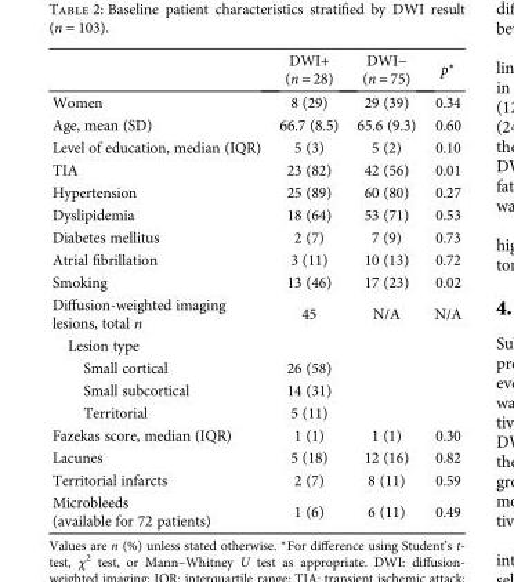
<table><thead><tr><td></td><td>DWI+ (n = 28)</td><td>DWI− (n = 75)</td><td>p∗</td></tr></thead><tbody><tr><td>Women</td><td>8 (29)</td><td>29 (39)</td><td>0.34</td></tr><tr><td>Age, mean (SD)</td><td>66.7 (8.5)</td><td>65.6 (9.3)</td><td>0.60</td></tr><tr><td>Level of education, median (IQR)</td><td>5 (3)</td><td>5 (2)</td><td>0.10</td></tr><tr><td>TIA</td><td>23 (82)</td><td>42 (56)</td><td>0.01</td></tr><tr><td>Hypertension</td><td>25 (89)</td><td>60 (80)</td><td>0.27</td></tr><tr><td>Dyslipidemia</td><td>18 (64)</td><td>53 (71)</td><td>0.53</td></tr><tr><td>Diabetes mellitus</td><td>2 (7)</td><td>7 (9)</td><td>0.73</td></tr><tr><td>Atrial fibrillation</td><td>3 (11)</td><td>10 (13)</td><td>0.72</td></tr><tr><td>Smoking</td><td>13 (46)</td><td>17 (23)</td><td>0.02</td></tr><tr><td>Diffusion-weighted imaging lesions, total n</td><td>45</td><td>N/A</td><td>N/A</td></tr><tr><td colspan="4">Lesion type</td></tr><tr><td>Small cortical</td><td>26 (58)</td><td></td><td></td></tr><tr><td>Small subcortical</td><td>14 (31)</td><td></td><td></td></tr><tr><td>Territorial</td><td>5 (11)</td><td></td><td></td></tr><tr><td>Fazekas score, median (IQR)</td><td>1 (1)</td><td>1 (1)</td><td>0.30</td></tr><tr><td>Lacunes</td><td>5 (18)</td><td>12 (16)</td><td>0.82</td></tr><tr><td>Territorial infarcts</td><td>2 (7)</td><td>8 (11)</td><td>0.59</td></tr><tr><td>Microbleeds (available for 72 patients)</td><td>1 (6)</td><td>6 (11)</td><td>0.49</td></tr></tbody></table>